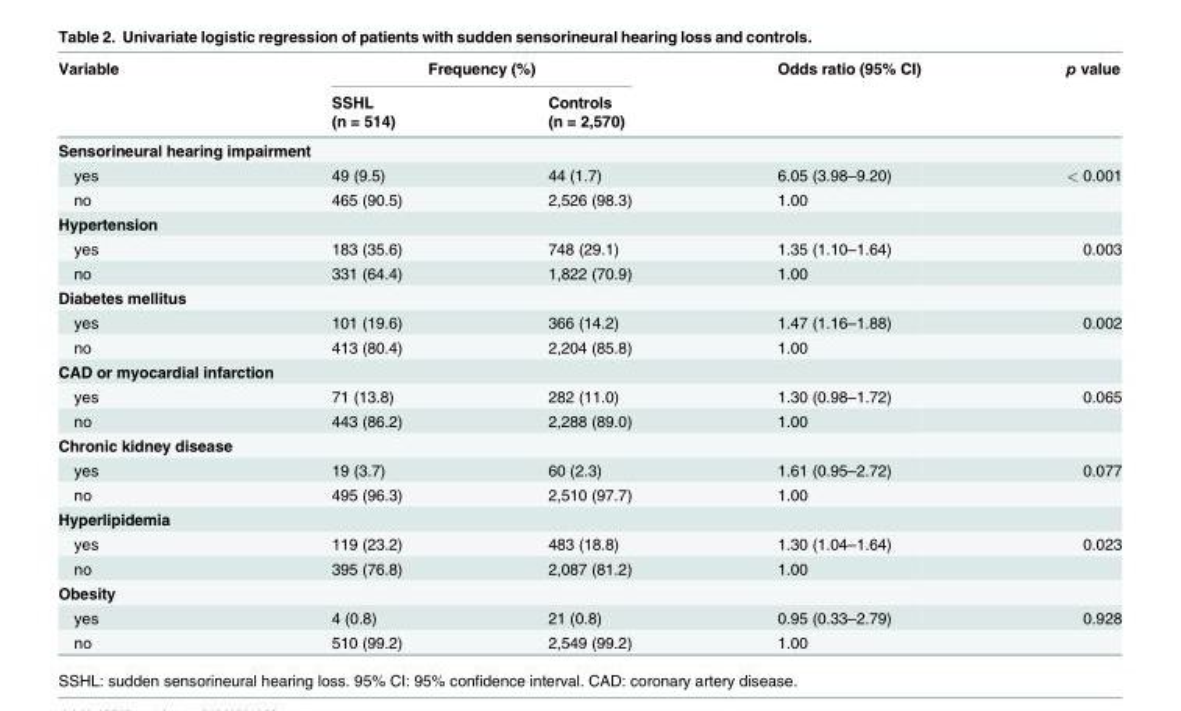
<table><thead><tr><td rowspan="3">Variable</td><td colspan="2">Frequency (%)</td><td rowspan="3">Odds ratio (95% CI)</td><td rowspan="3">p value</td></tr><tr><td rowspan="2">SSHL (n = 514)</td><td rowspan="2">Controls (n = 2,570)</td></tr><tr></tr></thead><tbody><tr><td colspan="5">Sensorineural hearing impairment</td></tr><tr><td>yes</td><td>49 (9.5)</td><td>44 (1.7)</td><td>6.05 (3.98–9.20)</td><td>&lt; 0.001</td></tr><tr><td>no</td><td>465 (90.5)</td><td>2,526 (98.3)</td><td>1.00</td><td></td></tr><tr><td colspan="5">Hypertension</td></tr><tr><td>yes</td><td>183 (35.6)</td><td>748 (29.1)</td><td>1.35 (1.10–1.64)</td><td>0.003</td></tr><tr><td>no</td><td>331 (64.4)</td><td>1,822 (70.9)</td><td>1.00</td><td></td></tr><tr><td colspan="5">Diabetes mellitus</td></tr><tr><td>yes</td><td>101 (19.6)</td><td>366 (14.2)</td><td>1.47 (1.16–1.88)</td><td>0.002</td></tr><tr><td>no</td><td>413 (80.4)</td><td>2,204 (85.8)</td><td>1.00</td><td></td></tr><tr><td colspan="5">CAD or myocardial infarction</td></tr><tr><td>yes</td><td>71 (13.8)</td><td>282 (11.0)</td><td>1.30 (0.98–1.72)</td><td>0.065</td></tr><tr><td>no</td><td>443 (86.2)</td><td>2,288 (89.0)</td><td>1.00</td><td></td></tr><tr><td colspan="5">Chronic kidney disease</td></tr><tr><td>yes</td><td>19 (3.7)</td><td>60 (2.3)</td><td>1.61 (0.95–2.72)</td><td>0.077</td></tr><tr><td>no</td><td>495 (96.3)</td><td>2,510 (97.7)</td><td>1.00</td><td></td></tr><tr><td colspan="5">Hyperlipidemia</td></tr><tr><td>yes</td><td>119 (23.2)</td><td>483 (18.8)</td><td>1.30 (1.04–1.64)</td><td>0.023</td></tr><tr><td>no</td><td>395 (76.8)</td><td>2,087 (81.2)</td><td>1.00</td><td></td></tr><tr><td colspan="5">Obesity</td></tr><tr><td>yes</td><td>4 (0.8)</td><td>21 (0.8)</td><td>0.95 (0.33–2.79)</td><td>0.928</td></tr><tr><td>no</td><td>510 (99.2)</td><td>2,549 (99.2)</td><td>1.00</td><td></td></tr></tbody></table>